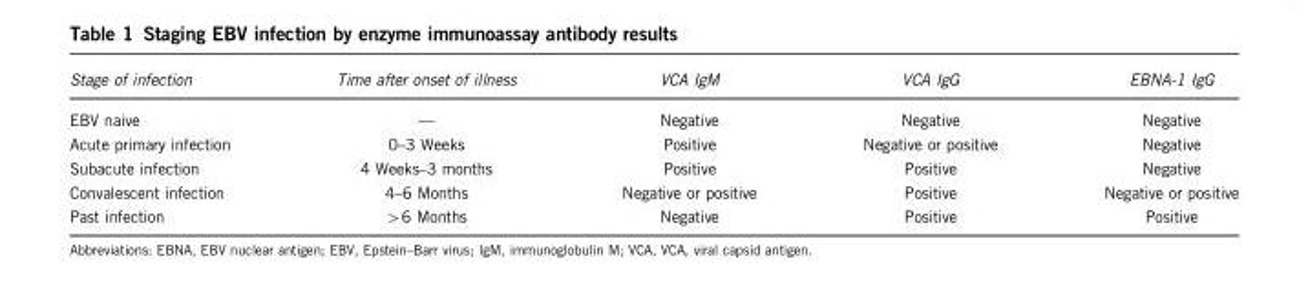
<table><thead><tr><td>Stage of infection</td><td>Time after onset of illness</td><td>VCA IgM</td><td>VCA IgG</td><td>EBNA-1 IgG</td></tr></thead><tbody><tr><td>EBV naive</td><td>—</td><td>Negative</td><td>Negative</td><td>Negative</td></tr><tr><td>Acute primary infection</td><td>0–3 Weeks</td><td>Positive</td><td>Negative or positive</td><td>Negative</td></tr><tr><td>Subacute infection</td><td>4 Weeks–3 months</td><td>Positive</td><td>Positive</td><td>Negative</td></tr><tr><td>Convalescent infection</td><td>4–6 Months</td><td>Negative or positive</td><td>Positive</td><td>Negative or positive</td></tr><tr><td>Past infection</td><td>&gt;6 Months</td><td>Negative</td><td>Positive</td><td>Positive</td></tr></tbody></table>